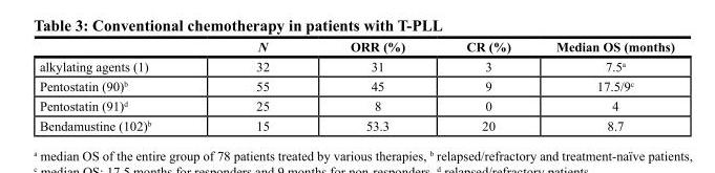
<table><thead><tr><td></td><td>N</td><td>ORR (%)</td><td>CR (%)</td><td>Median OS (months)</td></tr></thead><tbody><tr><td>alkylating agents (1)</td><td>32</td><td>31</td><td>3</td><td>7.5<sup>a</sup></td></tr><tr><td>Pentostatin (90)<sup>b</sup></td><td>55</td><td>45</td><td>9</td><td>17.5/9<sup>c</sup></td></tr><tr><td>Pentostatin (91)<sup>d</sup></td><td>25</td><td>8</td><td>0</td><td>4</td></tr><tr><td>Bendamustine (102)<sup>b</sup></td><td>15</td><td>53.3</td><td>20</td><td>8.7</td></tr></tbody></table>